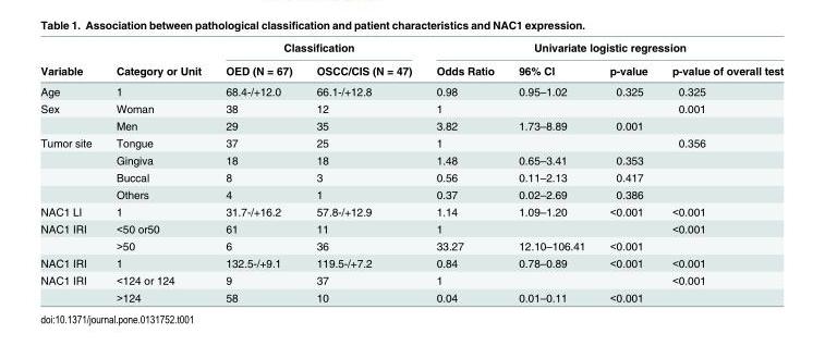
<table><thead><tr><td rowspan="2">Variable</td><td rowspan="2">Category or Unit</td><td colspan="2">Classification</td><td colspan="4">Univariate logistic regression</td></tr><tr><td>OED (N = 67)</td><td>OSCC/CIS (N = 47)</td><td>Odds Ratio</td><td>96% Cl</td><td>p-value</td><td>p-value of overall test</td></tr></thead><tbody><tr><td>Age</td><td>1</td><td>68.4-/+12.0</td><td>66.1-/+12.8</td><td>0.98</td><td>0.95–1.02</td><td>0.325</td><td>0.325</td></tr><tr><td rowspan="2">Sex</td><td>Woman</td><td>38</td><td>12</td><td>1</td><td></td><td></td><td>0.001</td></tr><tr><td>Men</td><td>29</td><td>35</td><td>3.82</td><td>1.73–8.89</td><td>0.001</td><td></td></tr><tr><td rowspan="4">Tumor site</td><td>Tongue</td><td>37</td><td>25</td><td>1</td><td></td><td></td><td>0.356</td></tr><tr><td>Gingiva</td><td>18</td><td>18</td><td>1.48</td><td>0.65–3.41</td><td>0.353</td><td></td></tr><tr><td>Buccal</td><td>8</td><td>3</td><td>0.56</td><td>0.11–2.13</td><td>0.417</td><td></td></tr><tr><td>Others</td><td>4</td><td>1</td><td>0.37</td><td>0.02–2.69</td><td>0.386</td><td></td></tr><tr><td>NAC1 LI</td><td>1</td><td>31.7-/+16.2</td><td>57.8-/+12.9</td><td>1.14</td><td>1.09–1.20</td><td>&lt;0.001</td><td>&lt;0.001</td></tr><tr><td rowspan="2">NAC1 IRI</td><td>&lt;50 or50</td><td>61</td><td>11</td><td>1</td><td></td><td></td><td>&lt;0.001</td></tr><tr><td>&gt;50</td><td>6</td><td>36</td><td>33.27</td><td>12.10–106.41</td><td>&lt;0.001</td><td></td></tr><tr><td>NAC1 IRI</td><td>1</td><td>132.5-/+9.1</td><td>119.5-/+7.2</td><td>0.84</td><td>0.78–0.89</td><td>&lt;0.001</td><td>&lt;0.001</td></tr><tr><td rowspan="2">NAC1 IRI</td><td>&lt;124 or 124</td><td>9</td><td>37</td><td>1</td><td></td><td></td><td>&lt;0.001</td></tr><tr><td>&gt;124</td><td>58</td><td>10</td><td>0.04</td><td>0.01–0.11</td><td>&lt;0.001</td><td></td></tr></tbody></table>